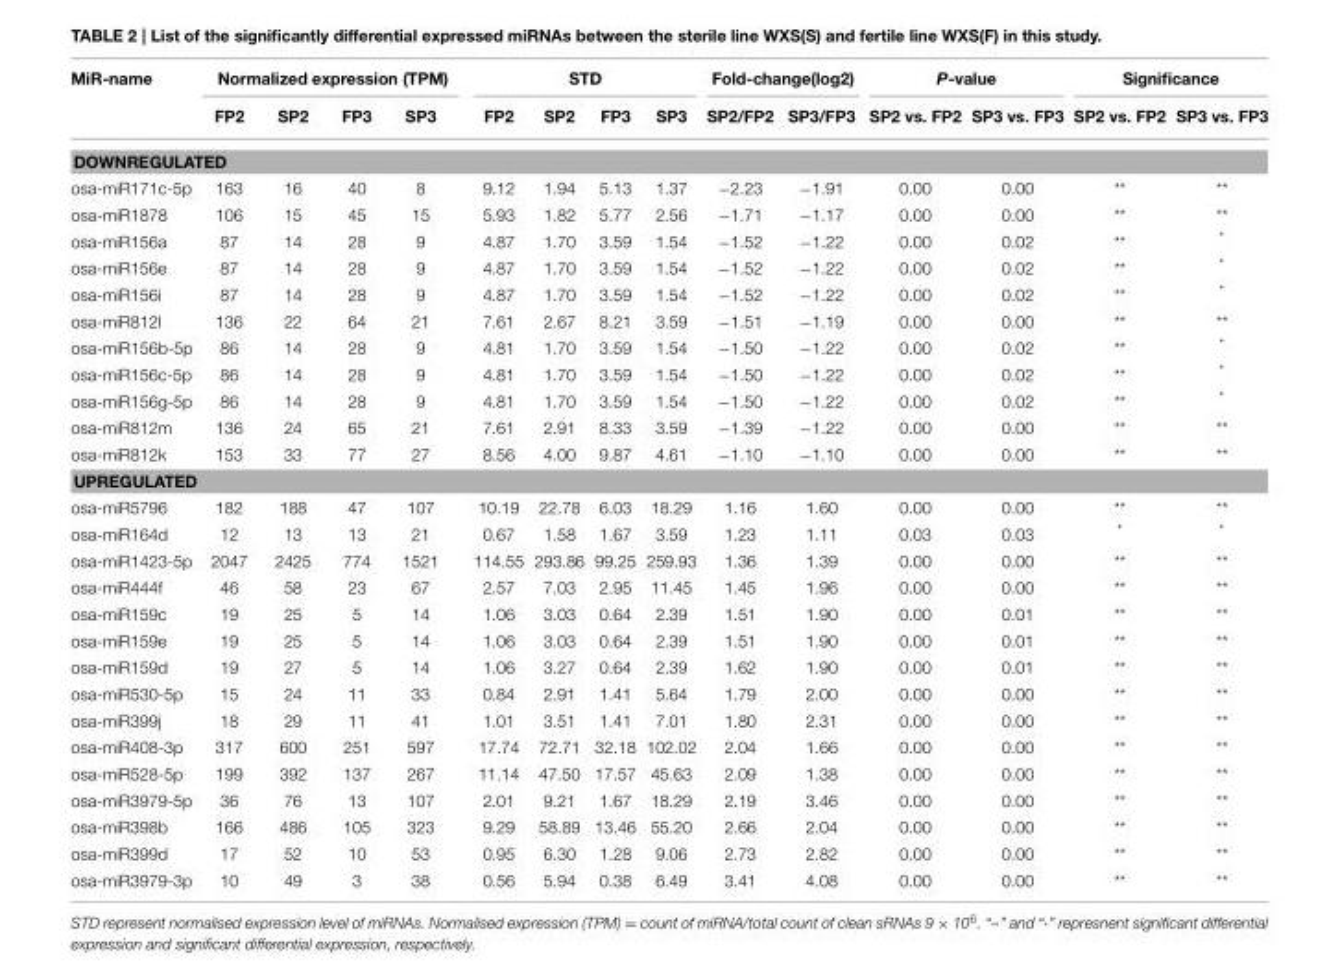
<table><thead><tr><td rowspan="2">MiR-name</td><td colspan="4">Normalized expression (TPM)</td><td colspan="4">STD</td><td colspan="2">Fold-change(log2)</td><td colspan="2">P-value</td><td colspan="2">Significance</td></tr><tr><td>FP2</td><td>SP2</td><td>FP3</td><td>SP3</td><td>FP2</td><td>SP2</td><td>FP3</td><td>SP3</td><td>SP2/FP2</td><td>SP3/FP3</td><td>SP2 vs. FP2</td><td>SP3 vs. FP3</td><td>SP2 vs. FP2</td><td>SP3 vs. FP3</td></tr></thead><tbody><tr><td colspan="15">DOWNREGULATED</td></tr><tr><td>osa-miR171c-5p</td><td>163</td><td>16</td><td>40</td><td>8</td><td>9.12</td><td>1.94</td><td>5.13</td><td>1.37</td><td>−2.23</td><td>−1.91</td><td>0.00</td><td>0.00</td><td>**</td><td>**</td></tr><tr><td>osa-miR1878</td><td>106</td><td>15</td><td>45</td><td>15</td><td>5.93</td><td>1.82</td><td>5.77</td><td>2.56</td><td>−1.71</td><td>−1.17</td><td>0.00</td><td>0.00</td><td>**</td><td>**</td></tr><tr><td>osa-miR156a</td><td>87</td><td>14</td><td>28</td><td>9</td><td>4.87</td><td>1.70</td><td>3.59</td><td>1.54</td><td>−1.52</td><td>−1.22</td><td>0.00</td><td>0.02</td><td>**</td><td>*</td></tr><tr><td>osa-miR156e</td><td>87</td><td>14</td><td>28</td><td>9</td><td>4.87</td><td>1.70</td><td>3.59</td><td>1.54</td><td>−1.52</td><td>−1.22</td><td>0.00</td><td>0.02</td><td>**</td><td>*</td></tr><tr><td>osa-miR156i</td><td>87</td><td>14</td><td>28</td><td>9</td><td>4.87</td><td>1.70</td><td>3.59</td><td>1.54</td><td>−1.52</td><td>−1.22</td><td>0.00</td><td>0.02</td><td>**</td><td>*</td></tr><tr><td>osa-miR812l</td><td>136</td><td>22</td><td>64</td><td>21</td><td>7.61</td><td>2.67</td><td>8.21</td><td>3.59</td><td>−1.51</td><td>−1.19</td><td>0.00</td><td>0.00</td><td>**</td><td>**</td></tr><tr><td>osa-miR156b-5p</td><td>86</td><td>14</td><td>28</td><td>9</td><td>4.81</td><td>1.70</td><td>3.59</td><td>1.54</td><td>−1.50</td><td>−1.22</td><td>0.00</td><td>0.02</td><td>**</td><td>*</td></tr><tr><td>osa-miR156c-5p</td><td>86</td><td>14</td><td>28</td><td>9</td><td>4.81</td><td>1.70</td><td>3.59</td><td>1.54</td><td>−1.50</td><td>−1.22</td><td>0.00</td><td>0.02</td><td>**</td><td>*</td></tr><tr><td>osa-miR156g-5p</td><td>86</td><td>14</td><td>28</td><td>9</td><td>4.81</td><td>1.70</td><td>3.59</td><td>1.54</td><td>−1.50</td><td>−1.22</td><td>0.00</td><td>0.02</td><td>**</td><td>*</td></tr><tr><td>osa-miR812m</td><td>136</td><td>24</td><td>65</td><td>21</td><td>7.61</td><td>2.91</td><td>8.33</td><td>3.59</td><td>−1.39</td><td>−1.22</td><td>0.00</td><td>0.00</td><td>**</td><td>**</td></tr><tr><td>osa-miR812k</td><td>153</td><td>33</td><td>77</td><td>27</td><td>8.56</td><td>4.00</td><td>9.87</td><td>4.61</td><td>−1.10</td><td>−1.10</td><td>0.00</td><td>0.00</td><td>**</td><td>**</td></tr><tr><td colspan="15">UPREGULATED</td></tr><tr><td>osa-miR5796</td><td>182</td><td>188</td><td>47</td><td>107</td><td>10.19</td><td>22.78</td><td>6.03</td><td>18.29</td><td>1.16</td><td>1.60</td><td>0.00</td><td>0.00</td><td>**</td><td>**</td></tr><tr><td>osa-miR164d</td><td>12</td><td>13</td><td>13</td><td>21</td><td>0.67</td><td>1.58</td><td>1.67</td><td>3.59</td><td>1.23</td><td>1.11</td><td>0.03</td><td>0.03</td><td>*</td><td>*</td></tr><tr><td>osa-miR1423-5p</td><td>2047</td><td>2425</td><td>774</td><td>1521</td><td>114.55</td><td>293.86</td><td>99.25</td><td>259.93</td><td>1.36</td><td>1.39</td><td>0.00</td><td>0.00</td><td>**</td><td>**</td></tr><tr><td>osa-miR444f</td><td>46</td><td>58</td><td>23</td><td>67</td><td>2.57</td><td>7.03</td><td>2.95</td><td>11.45</td><td>1.45</td><td>1.96</td><td>0.00</td><td>0.00</td><td>**</td><td>**</td></tr><tr><td>osa-miR159c</td><td>19</td><td>25</td><td>5</td><td>14</td><td>1.06</td><td>3.03</td><td>0.64</td><td>2.39</td><td>1.51</td><td>1.90</td><td>0.00</td><td>0.01</td><td>**</td><td>**</td></tr><tr><td>osa-miR159e</td><td>19</td><td>25</td><td>5</td><td>14</td><td>1.06</td><td>3.03</td><td>0.64</td><td>2.39</td><td>1.51</td><td>1.90</td><td>0.00</td><td>0.01</td><td>**</td><td>**</td></tr><tr><td>osa-miR159d</td><td>19</td><td>27</td><td>5</td><td>14</td><td>1.06</td><td>3.27</td><td>0.64</td><td>2.39</td><td>1.62</td><td>1.90</td><td>0.00</td><td>0.01</td><td>**</td><td>**</td></tr><tr><td>osa-miR530-5p</td><td>15</td><td>24</td><td>11</td><td>33</td><td>0.84</td><td>2.91</td><td>1.41</td><td>5.64</td><td>1.79</td><td>2.00</td><td>0.00</td><td>0.00</td><td>**</td><td>**</td></tr><tr><td>osa-miR399j</td><td>18</td><td>29</td><td>11</td><td>41</td><td>1.01</td><td>3.51</td><td>1.41</td><td>7.01</td><td>1.80</td><td>2.31</td><td>0.00</td><td>0.00</td><td>**</td><td>**</td></tr><tr><td>osa-miR408-3p</td><td>317</td><td>600</td><td>251</td><td>597</td><td>17.74</td><td>72.71</td><td>32.18</td><td>102.02</td><td>2.04</td><td>1.66</td><td>0.00</td><td>0.00</td><td>**</td><td>**</td></tr><tr><td>osa-miR528-5p</td><td>199</td><td>392</td><td>137</td><td>267</td><td>11.14</td><td>47.50</td><td>17.57</td><td>45.63</td><td>2.09</td><td>1.38</td><td>0.00</td><td>0.00</td><td>**</td><td>**</td></tr><tr><td>osa-miR3979-5p</td><td>36</td><td>76</td><td>13</td><td>107</td><td>2.01</td><td>9.21</td><td>1.67</td><td>18.29</td><td>2.19</td><td>3.46</td><td>0.00</td><td>0.00</td><td>**</td><td>**</td></tr><tr><td>osa-miR398b</td><td>166</td><td>486</td><td>105</td><td>323</td><td>9.29</td><td>58.89</td><td>13.46</td><td>55.20</td><td>2.66</td><td>2.04</td><td>0.00</td><td>0.00</td><td>**</td><td>**</td></tr><tr><td>osa-miR399d</td><td>17</td><td>52</td><td>10</td><td>53</td><td>0.95</td><td>6.30</td><td>1.28</td><td>9.06</td><td>2.73</td><td>2.82</td><td>0.00</td><td>0.00</td><td>**</td><td>**</td></tr><tr><td>osa-miR3979-3p</td><td>10</td><td>49</td><td>3</td><td>38</td><td>0.56</td><td>5.94</td><td>0.38</td><td>6.49</td><td>3.41</td><td>4.08</td><td>0.00</td><td>0.00</td><td>**</td><td>**</td></tr></tbody></table>